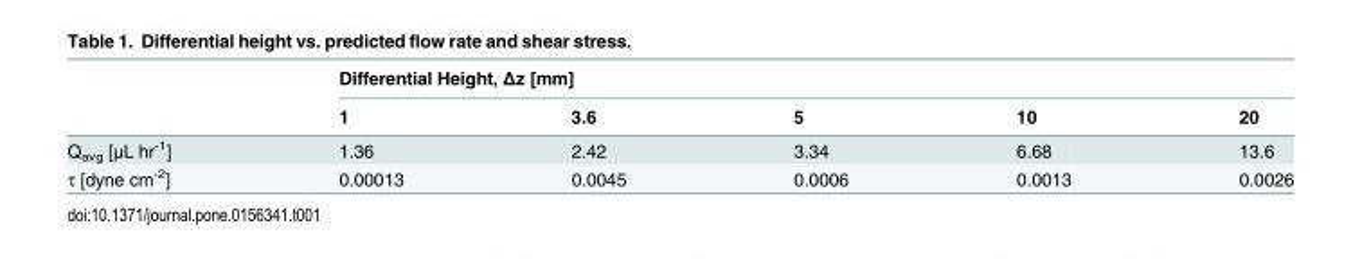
<table><thead><tr><td rowspan="2"></td><td colspan="5">Differential Height, Δz [mm]</td></tr><tr><td>1</td><td>3.6</td><td>5</td><td>10</td><td>20</td></tr></thead><tbody><tr><td>Q<sub>avg</sub> [μL hr<sup>-1</sup>]</td><td>1.36</td><td>2.42</td><td>3.34</td><td>6.68</td><td>13.6</td></tr><tr><td>τ [dyne cm<sup>-2</sup>]</td><td>0.00013</td><td>0.0045</td><td>0.0006</td><td>0.0013</td><td>0.0026</td></tr></tbody></table>